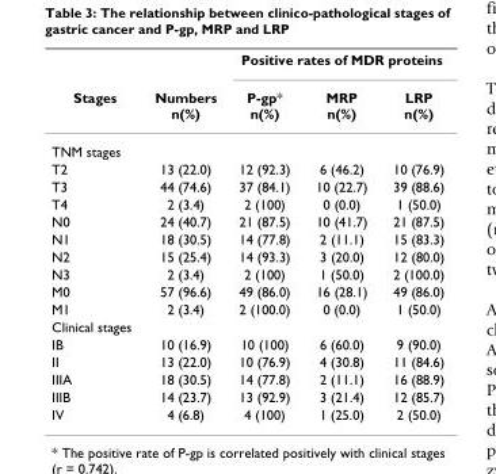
<table><thead><tr><td rowspan="2">Stages</td><td rowspan="2">Numbers n(%)</td><td colspan="3">Positive rates of MDR proteins</td></tr><tr><td>P-gp* n(%)</td><td>MRP n(%)</td><td>LRP n(%)</td></tr></thead><tbody><tr><td colspan="5">TNM stages</td></tr><tr><td>T2</td><td>13 (22.0)</td><td>12 (92.3)</td><td>6 (46.2)</td><td>10 (76.9)</td></tr><tr><td>T3</td><td>44 (74.6)</td><td>37 (84.1)</td><td>10 (22.7)</td><td>39 (88.6)</td></tr><tr><td>T4</td><td>2 (3.4)</td><td>2 (100)</td><td>0 (0.0)</td><td>1 (50.0)</td></tr><tr><td>N0</td><td>24 (40.7)</td><td>21 (87.5)</td><td>10 (41.7)</td><td>21 (87.5)</td></tr><tr><td>N1</td><td>18 (30.5)</td><td>14 (77.8)</td><td>2 (11.1)</td><td>15 (83.3)</td></tr><tr><td>N2</td><td>15 (25.4)</td><td>14 (93.3)</td><td>3 (20.0)</td><td>12 (80.0)</td></tr><tr><td>N3</td><td>2 (3.4)</td><td>2 (100)</td><td>1 (50.0)</td><td>2 (100.0)</td></tr><tr><td>M0</td><td>57 (96.6)</td><td>49 (86.0)</td><td>16 (28.1)</td><td>49 (86.0)</td></tr><tr><td>M1</td><td>2 (3.4)</td><td>2 (100.0)</td><td>0 (0.0)</td><td>1 (50.0)</td></tr><tr><td colspan="5">Clinical stages</td></tr><tr><td>IB</td><td>10 (16.9)</td><td>10 (100)</td><td>6 (60.0)</td><td>9 (90.0)</td></tr><tr><td>II</td><td>13 (22.0)</td><td>10 (76.9)</td><td>4 (30.8)</td><td>11 (84.6)</td></tr><tr><td>IIIA</td><td>18 (30.5)</td><td>14 (77.8)</td><td>2 (11.1)</td><td>16 (88.9)</td></tr><tr><td>IIIB</td><td>14 (23.7)</td><td>13 (92.9)</td><td>3 (21.4)</td><td>12 (85.7)</td></tr><tr><td>IV</td><td>4 (6.8)</td><td>4 (100)</td><td>1 (25.0)</td><td>2 (50.0)</td></tr></tbody></table>